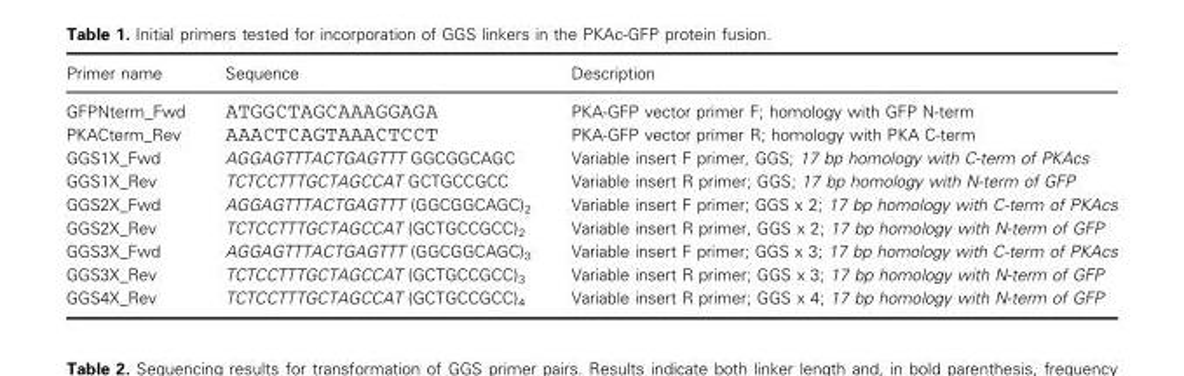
<table><thead><tr><td>Primer name</td><td>Sequence</td><td>Description</td></tr></thead><tbody><tr><td>GFPNterm_Fwd</td><td>ATGGCTAGCAAAGGAGA</td><td>PKA-GFP vector primer F; homology with GFP N-term</td></tr><tr><td>PKACterm_Rev</td><td>AAACTCAGTAAACTCCT</td><td>PKA-GFP vector primer R; homology with PKA C-term</td></tr><tr><td>GGS1X_Fwd</td><td>AGGAGTTTACTGAGTTT GGCGGCAGC</td><td>Variable insert F primer, GGS; 17 bp homology with C-term of PKAcs</td></tr><tr><td>GGS1X_Rev</td><td>TCTCCTTTGCTAGCCAT GCTGCCGCC</td><td>Variable insert R primer; GGS; 17 bp homology with N-term of GFP</td></tr><tr><td>GGS2X_Fwd</td><td>AGGAGTTTACTGAGTTT (GGCGGCAGC)<sub>2</sub></td><td>Variable insert F primer; GGS x 2; 17 bp homology with C-term of PKAcs</td></tr><tr><td>GGS2X_Rev</td><td>TCTCCTTTGCTAGCCAT (GCTGCCGCC)<sub>2</sub></td><td>Variable insert R primer, GGS x 2; 17 bp homology with N-term of GFP</td></tr><tr><td>GGS3X_Fwd</td><td>AGGAGTTTACTGAGTTT (GGCGGCAGC)<sub>3</sub></td><td>Variable insert F primer; GGS x 3; 17 bp homology with C-term of PKAcs</td></tr><tr><td>GGS3X_Rev</td><td>TCTCCTTTGCTAGCCAT (GCTGCCGCC)<sub>3</sub></td><td>Variable insert R primer; GGS x 3; 17 bp homology with N-term of GFP</td></tr><tr><td>GGS4X_Rev</td><td>TCTCCTTTGCTAGCCAT (GCTGCCGCC)<sub>4</sub></td><td>Variable insert R primer; GGS x 4; 17 bp homology with N-term of GFP</td></tr></tbody></table>